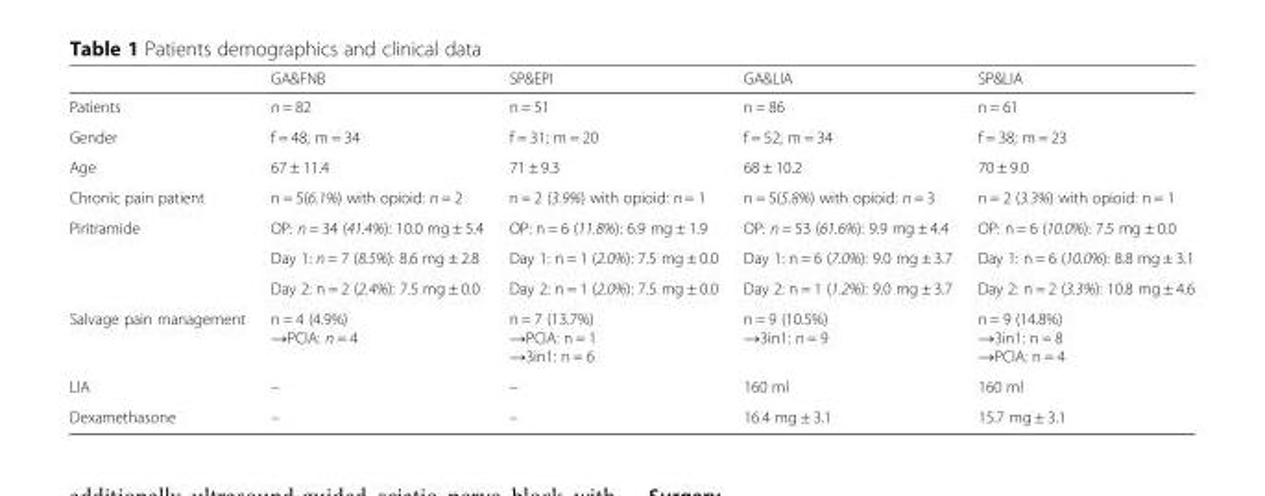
<table><thead><tr><td></td><td>GA&amp;FNB</td><td>SP&amp;EPI</td><td>GA&amp;LIA</td><td>SP&amp;LIA</td></tr></thead><tbody><tr><td>Patients</td><td>n = 82</td><td>n = 51</td><td>n = 86</td><td>n = 61</td></tr><tr><td>Gender</td><td>f = 48; m = 34</td><td>f = 31; m = 20</td><td>f = 52; m = 34</td><td>f = 38; m = 23</td></tr><tr><td>Age</td><td>67 ± 11.4</td><td>71 ± 9.3</td><td>68 ± 10.2</td><td>70 ± 9.0</td></tr><tr><td>Chronic pain patient</td><td>n = 5(6.1%) with opioid: n = 2</td><td>n = 2 (3.9%) with opioid: n = 1</td><td>n = 5(5.8%) with opioid: n = 3</td><td>n = 2 (3.3%) with opioid: n = 1</td></tr><tr><td rowspan="3">Piritramide</td><td>OP: n = 34 (41.4%): 10.0 mg ± 5.4</td><td>OP: n = 6 (11.8%): 6.9 mg ± 1.9</td><td>OP: n = 53 (61.6%): 9.9 mg ± 4.4</td><td>OP: n = 6 (10.0%): 7.5 mg ± 0.0</td></tr><tr><td>Day 1: n = 7 (8.5%): 8.6 mg ± 2.8</td><td>Day 1: n = 1 (2.0%): 7.5 mg ± 0.0</td><td>Day 1: n = 6 (7.0%): 9.0 mg ± 3.7</td><td>Day 1: n = 6 (10.0%): 8.8 mg ± 3.1</td></tr><tr><td>Day 2: n = 2 (2.4%): 7.5 mg ± 0.0</td><td>Day 2: n = 1 (2.0%): 7.5 mg ± 0.0</td><td>Day 2: n = 1 (1.2%): 9.0 mg ± 3.7</td><td>Day 2: n = 2 (3.3%): 10.8 mg ± 4.6</td></tr><tr><td>Salvage pain management</td><td>n = 4 (4.9%) →PCIA: n = 4</td><td>n = 7 (13.7%) →PCIA: n = 1 →3in1: n = 6</td><td>n = 9 (10.5%) →3in1: n = 9</td><td>n = 9 (14.8%) →3in1: n = 8 →PCIA: n = 4</td></tr><tr><td>LIA</td><td>–</td><td>–</td><td>160 ml</td><td>160 ml</td></tr><tr><td>Dexamethasone</td><td>–</td><td>–</td><td>16.4 mg ± 3.1</td><td>15.7 mg ± 3.1</td></tr></tbody></table>